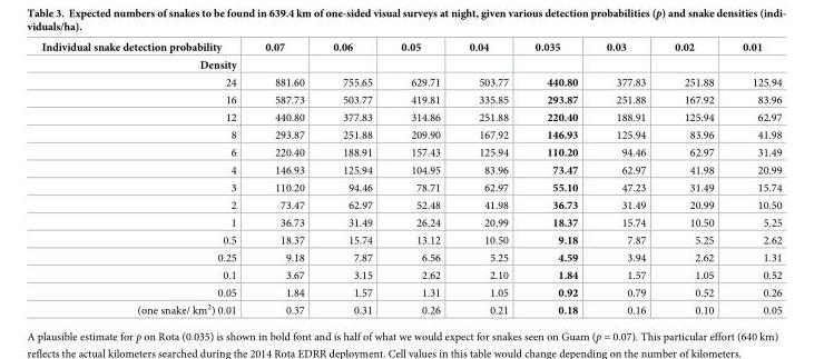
<table><thead><tr><td rowspan="2">Individual snake detection probability Density</td><td rowspan="2">0.07</td><td rowspan="2">0.06</td><td rowspan="2">0.05</td><td rowspan="2">0.04</td><td rowspan="2">0.035</td><td rowspan="2">0.03</td><td rowspan="2">0.02</td><td rowspan="2">0.01</td></tr><tr></tr></thead><tbody><tr><td>24</td><td>881.60</td><td>755.65</td><td>629.71</td><td>503.77</td><td>440.80</td><td>377.83</td><td>251.88</td><td>125.94</td></tr><tr><td>16</td><td>587.73</td><td>503.77</td><td>419.81</td><td>335.85</td><td>293.87</td><td>251.88</td><td>167.92</td><td>83.96</td></tr><tr><td>12</td><td>440.80</td><td>377.83</td><td>314.86</td><td>251.88</td><td>220.40</td><td>188.91</td><td>125.94</td><td>62.97</td></tr><tr><td>8</td><td>293.87</td><td>251.88</td><td>209.90</td><td>167.92</td><td>146.93</td><td>125.94</td><td>83.96</td><td>41.98</td></tr><tr><td>6</td><td>220.40</td><td>188.91</td><td>157.43</td><td>125.94</td><td>110.20</td><td>94.46</td><td>62.97</td><td>31.49</td></tr><tr><td>4</td><td>146.93</td><td>125.94</td><td>104.95</td><td>83.96</td><td>73.47</td><td>62.97</td><td>41.98</td><td>20.99</td></tr><tr><td>3</td><td>110.20</td><td>94.46</td><td>78.71</td><td>62.97</td><td>55.10</td><td>47.23</td><td>31.49</td><td>15.74</td></tr><tr><td>2</td><td>73.47</td><td>62.97</td><td>52.48</td><td>41.98</td><td>36.73</td><td>31.49</td><td>20.99</td><td>10.50</td></tr><tr><td>1</td><td>36.73</td><td>31.49</td><td>26.24</td><td>20.99</td><td>18.37</td><td>15.74</td><td>10.50</td><td>5.25</td></tr><tr><td>0.5</td><td>18.37</td><td>15.74</td><td>13.12</td><td>10.50</td><td>9.18</td><td>7.87</td><td>5.25</td><td>2.62</td></tr><tr><td>0.25</td><td>9.18</td><td>7.87</td><td>6.56</td><td>5.25</td><td>4.59</td><td>3.94</td><td>2.62</td><td>1.31</td></tr><tr><td>0.1</td><td>3.67</td><td>3.15</td><td>2.62</td><td>2.10</td><td>1.84</td><td>1.57</td><td>1.05</td><td>0.52</td></tr><tr><td>0.05</td><td>1.84</td><td>1.57</td><td>1.31</td><td>1.05</td><td>0.92</td><td>0.79</td><td>0.52</td><td>0.26</td></tr><tr><td>(one snake/ km<sup>2</sup>) 0.01</td><td>0.37</td><td>0.31</td><td>0.26</td><td>0.21</td><td>0.18</td><td>0.16</td><td>0.10</td><td>0.05</td></tr></tbody></table>